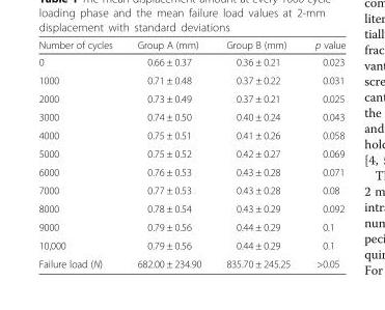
<table><thead><tr><td>Number of cycles</td><td>Group A (mm)</td><td>Group B (mm)</td><td>p value</td></tr></thead><tbody><tr><td>0</td><td>0.66 ± 0.37</td><td>0.36 ± 0.21</td><td>0.023</td></tr><tr><td>1000</td><td>0.71 ± 0.48</td><td>0.37 ± 0.22</td><td>0.031</td></tr><tr><td>2000</td><td>0.73 ± 0.49</td><td>0.37 ± 0.21</td><td>0.025</td></tr><tr><td>3000</td><td>0.74 ± 0.50</td><td>0.40 ± 0.24</td><td>0.043</td></tr><tr><td>4000</td><td>0.75 ± 0.51</td><td>0.41 ± 0.26</td><td>0.058</td></tr><tr><td>5000</td><td>0.75 ± 0.52</td><td>0.42 ± 0.27</td><td>0.069</td></tr><tr><td>6000</td><td>0.76 ± 0.53</td><td>0.43 ± 0.28</td><td>0.071</td></tr><tr><td>7000</td><td>0.77 ± 0.53</td><td>0.43 ± 0.28</td><td>0.08</td></tr><tr><td>8000</td><td>0.78 ± 0.54</td><td>0.43 ± 0.29</td><td>0.092</td></tr><tr><td>9000</td><td>0.79 ± 0.56</td><td>0.44 ± 0.29</td><td>0.1</td></tr><tr><td>10,000</td><td>0.79 ± 0.56</td><td>0.44 ± 0.29</td><td>0.1</td></tr><tr><td>Failure load (N)</td><td>682.00 ± 234.90</td><td>835.70 ± 245.25</td><td>&gt;0.05</td></tr></tbody></table>